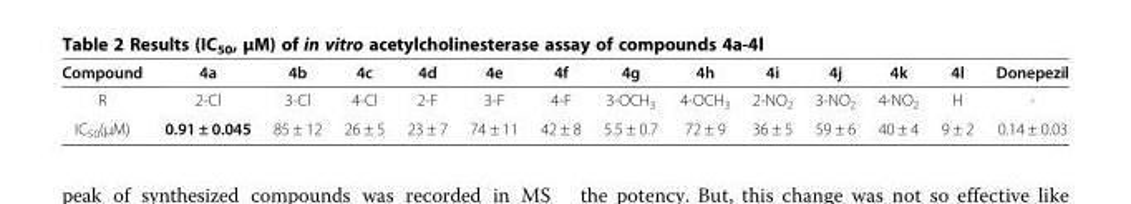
<table><thead><tr><td>Compound</td><td>4a</td><td>4b</td><td>4c</td><td>4d</td><td>4e</td><td>4f</td><td>4g</td><td>4h</td><td>4i</td><td>4j</td><td>4k</td><td>4l</td><td>Donepezil</td></tr></thead><tbody><tr><td>R</td><td>2-Cl</td><td>3-Cl</td><td>4-Cl</td><td>2-F</td><td>3-F</td><td>4-F</td><td>3-OCH<sub>3</sub></td><td>4-OCH<sub>3</sub></td><td>2-NO<sub>2</sub></td><td>3-NO<sub>2</sub></td><td>4-NO<sub>2</sub></td><td>H</td><td>-</td></tr><tr><td>IC<sub>50</sub>(μM)</td><td>0.91 ± 0.045</td><td>85 ± 12</td><td>26 ± 5</td><td>23 ± 7</td><td>74 ± 11</td><td>42 ± 8</td><td>5.5 ± 0.7</td><td>72 ± 9</td><td>36 ± 5</td><td>59 ± 6</td><td>40 ± 4</td><td>9 ± 2</td><td>0.14 ± 0.03</td></tr></tbody></table>